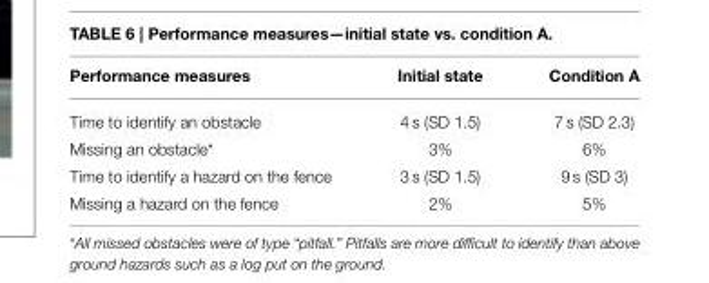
<table><thead><tr><td>Performance measures</td><td>Initial state</td><td>Condition A</td></tr></thead><tbody><tr><td>Time to identify an obstacle</td><td>4 s (SD 1.5)</td><td>7 s (SD 2.3)</td></tr><tr><td>Missing an obstacle*</td><td>3%</td><td>6%</td></tr><tr><td>Time to identify a hazard on the fence</td><td>3 s (SD 1.5)</td><td>9 s (SD 3)</td></tr><tr><td>Missing a hazard on the fence</td><td>2%</td><td>5%</td></tr></tbody></table>